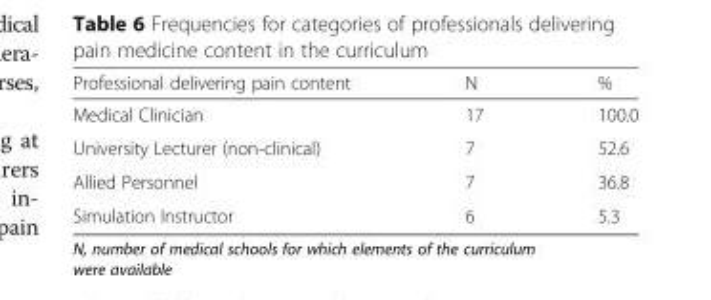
<table><thead><tr><td>Professional delivering pain content</td><td>N</td><td>%</td></tr></thead><tbody><tr><td>Medical Clinician</td><td>17</td><td>100.0</td></tr><tr><td>University Lecturer (non-clinical)</td><td>7</td><td>52.6</td></tr><tr><td>Allied Personnel</td><td>7</td><td>36.8</td></tr><tr><td>Simulation Instructor</td><td>6</td><td>5.3</td></tr></tbody></table>